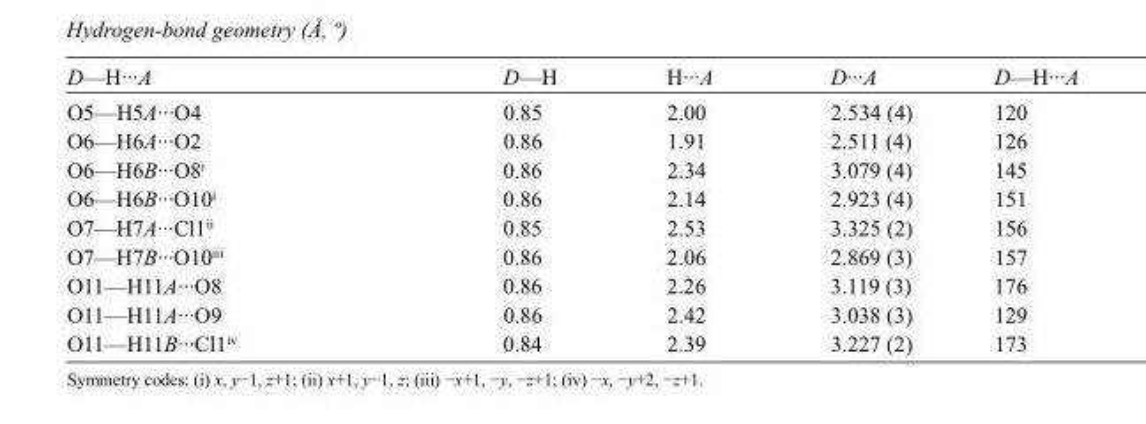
<table><tbody><tr><td>D—H···A</td><td>D—H</td><td>H···A</td><td>D···A</td><td>D—H···A</td></tr><tr><td>O5—H5A···O4</td><td>0.85</td><td>2.00</td><td>2.534 (4)</td><td>120</td></tr><tr><td>O6—H6A···O2</td><td>0.86</td><td>1.91</td><td>2.511 (4)</td><td>126</td></tr><tr><td>O6—H6B···O8<sup>i</sup></td><td>0.86</td><td>2.34</td><td>3.079 (4)</td><td>145</td></tr><tr><td>O6—H6B···O10<sup>i</sup></td><td>0.86</td><td>2.14</td><td>2.923 (4)</td><td>151</td></tr><tr><td>O7—H7A···Cl1<sup>ii</sup></td><td>0.85</td><td>2.53</td><td>3.325 (2)</td><td>156</td></tr><tr><td>O7—H7B···O10<sup>iii</sup></td><td>0.86</td><td>2.06</td><td>2.869 (3)</td><td>157</td></tr><tr><td>O11—H11A···O8</td><td>0.86</td><td>2.26</td><td>3.119 (3)</td><td>176</td></tr><tr><td>O11—H11A···O9</td><td>0.86</td><td>2.42</td><td>3.038 (3)</td><td>129</td></tr><tr><td>O11—H11B···Cl1<sup>iv</sup></td><td>0.84</td><td>2.39</td><td>3.227 (2)</td><td>173</td></tr></tbody></table>